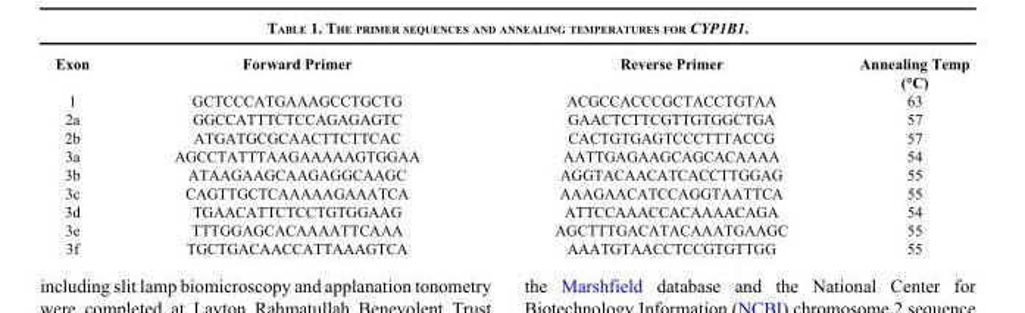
<table><thead><tr><td>Exon</td><td>Forward Primer</td><td>Reverse Primer</td><td>Annealing Temp (°C)</td></tr></thead><tbody><tr><td>1</td><td>GCTCCCATGAAAGCCTGCTG</td><td>ACGCCACCCGCTACCTGTAA</td><td>63</td></tr><tr><td>2a</td><td>GGCCATTTCTCCAGAGAGTC</td><td>GAACTCTTCGTTGTGGCTGA</td><td>57</td></tr><tr><td>2b</td><td>ATGATGCGCAACTTCTTCAC</td><td>CACTGTGAGTCCCTTTACCG</td><td>57</td></tr><tr><td>3a</td><td>AGCCTATTTAAGAAAAAGTGGAA</td><td>AATTGAGAAGCAGCACAAAA</td><td>54</td></tr><tr><td>3b</td><td>ATAAGAAGCAAGAGGCAAGC</td><td>AGGTACAACATCACCTTGGAG</td><td>55</td></tr><tr><td>3c</td><td>CAGTTGCTCAAAAAGAAATCA</td><td>AAAGAACATCCAGGTAATTCA</td><td>55</td></tr><tr><td>3d</td><td>TGAACATTCTCCTGTGGAAG</td><td>ATTCCAAACCACAAAACAGA</td><td>54</td></tr><tr><td>3e</td><td>TTTGGAGCACAAAATTCAAA</td><td>AGCTTTGACATACAAATGAAGC</td><td>55</td></tr><tr><td>3f</td><td>TGCTGACAACCATTAAAGTCA</td><td>AAATGTAACCTCCGTGTTGG</td><td>55</td></tr></tbody></table>